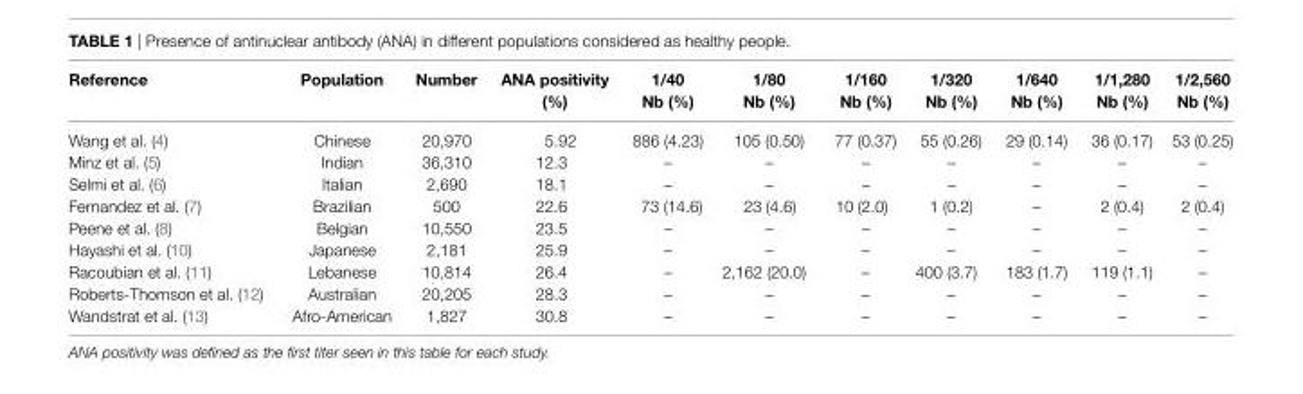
<table><thead><tr><td>Reference</td><td>Population</td><td>Number</td><td>ANA positivity (%)</td><td>1/40 Nb (%)</td><td>1/80 Nb (%)</td><td>1/160 Nb (%)</td><td>1/320 Nb (%)</td><td>1/640 Nb (%)</td><td>1/1,280 Nb (%)</td><td>1/2,560 Nb (%)</td></tr></thead><tbody><tr><td>Wang et al. (4)</td><td>Chinese</td><td>20,970</td><td>5.92</td><td>886 (4.23)</td><td>105 (0.50)</td><td>77 (0.37)</td><td>55 (0.26)</td><td>29 (0.14)</td><td>36 (0.17)</td><td>53 (0.25)</td></tr><tr><td>Minz et al. (5)</td><td>Indian</td><td>36,310</td><td>12.3</td><td>–</td><td>–</td><td>–</td><td>–</td><td>–</td><td>–</td><td>–</td></tr><tr><td>Selmi et al. (6)</td><td>Italian</td><td>2,690</td><td>18.1</td><td>–</td><td>–</td><td>–</td><td>–</td><td>–</td><td>–</td><td>–</td></tr><tr><td>Fernandez et al. (7)</td><td>Brazilian</td><td>500</td><td>22.6</td><td>73 (14.6)</td><td>23 (4.6)</td><td>10 (2.0)</td><td>1 (0.2)</td><td>–</td><td>2 (0.4)</td><td>2 (0.4)</td></tr><tr><td>Peene et al. (8)</td><td>Belgian</td><td>10,550</td><td>23.5</td><td>–</td><td>–</td><td>–</td><td>–</td><td>–</td><td>–</td><td>–</td></tr><tr><td>Hayashi et al. (10)</td><td>Japanese</td><td>2,181</td><td>25.9</td><td>–</td><td>–</td><td>–</td><td>–</td><td>–</td><td>–</td><td>–</td></tr><tr><td>Racoubian et al. (11)</td><td>Lebanese</td><td>10,814</td><td>26.4</td><td>–</td><td>2,162 (20.0)</td><td>–</td><td>400 (3.7)</td><td>183 (1.7)</td><td>119 (1.1)</td><td>–</td></tr><tr><td>Roberts-Thomson et al. (12)</td><td>Australian</td><td>20,205</td><td>28.3</td><td>–</td><td>–</td><td>–</td><td>–</td><td>–</td><td>–</td><td>–</td></tr><tr><td>Wandstrat et al. (13)</td><td>Afro-American</td><td>1,827</td><td>30.8</td><td>–</td><td>–</td><td>–</td><td>–</td><td>–</td><td>–</td><td>–</td></tr></tbody></table>